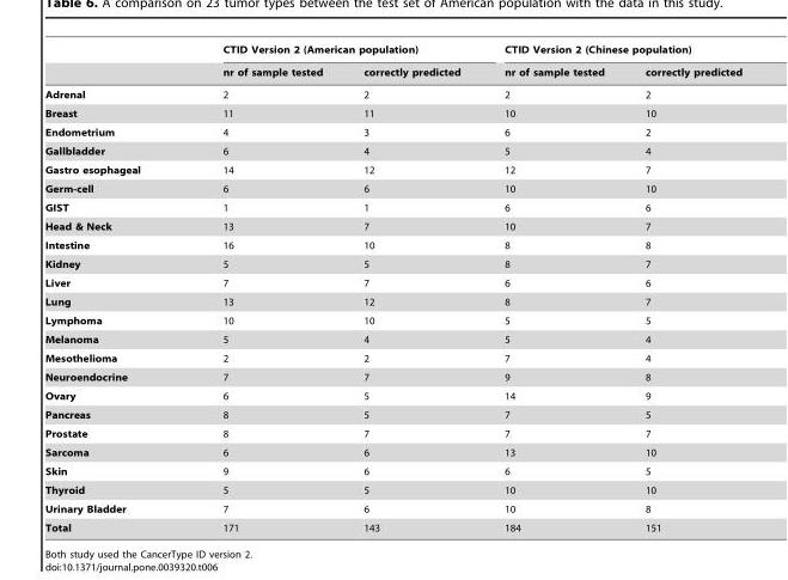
<table><thead><tr><td rowspan="2"></td><td colspan="2">CTID Version 2 (American population)</td><td colspan="2">CTID Version 2 (Chinese population)</td></tr><tr><td>nr of sample tested</td><td>correctly predicted</td><td>nr of sample tested</td><td>correctly predicted</td></tr></thead><tbody><tr><td>Adrenal</td><td>2</td><td>2</td><td>2</td><td>2</td></tr><tr><td>Breast</td><td>11</td><td>11</td><td>10</td><td>10</td></tr><tr><td>Endometrium</td><td>4</td><td>3</td><td>6</td><td>2</td></tr><tr><td>Gallbladder</td><td>6</td><td>4</td><td>5</td><td>4</td></tr><tr><td>Gastro esophageal</td><td>14</td><td>12</td><td>12</td><td>7</td></tr><tr><td>Germ-cell</td><td>6</td><td>6</td><td>10</td><td>10</td></tr><tr><td>GIST</td><td>1</td><td>1</td><td>6</td><td>6</td></tr><tr><td>Head &amp; Neck</td><td>13</td><td>7</td><td>10</td><td>7</td></tr><tr><td>Intestine</td><td>16</td><td>10</td><td>8</td><td>8</td></tr><tr><td>Kidney</td><td>5</td><td>5</td><td>8</td><td>7</td></tr><tr><td>Liver</td><td>7</td><td>7</td><td>6</td><td>6</td></tr><tr><td>Lung</td><td>13</td><td>12</td><td>8</td><td>7</td></tr><tr><td>Lymphoma</td><td>10</td><td>10</td><td>5</td><td>5</td></tr><tr><td>Melanoma</td><td>5</td><td>4</td><td>5</td><td>4</td></tr><tr><td>Mesothelioma</td><td>2</td><td>2</td><td>7</td><td>4</td></tr><tr><td>Neuroendocrine</td><td>7</td><td>7</td><td>9</td><td>8</td></tr><tr><td>Ovary</td><td>6</td><td>5</td><td>14</td><td>9</td></tr><tr><td>Pancreas</td><td>8</td><td>5</td><td>7</td><td>5</td></tr><tr><td>Prostate</td><td>8</td><td>7</td><td>7</td><td>7</td></tr><tr><td>Sarcoma</td><td>6</td><td>6</td><td>13</td><td>10</td></tr><tr><td>Skin</td><td>9</td><td>6</td><td>6</td><td>5</td></tr><tr><td>Thyroid</td><td>5</td><td>5</td><td>10</td><td>10</td></tr><tr><td>Urinary Bladder</td><td>7</td><td>6</td><td>10</td><td>8</td></tr><tr><td>Total</td><td>171</td><td>143</td><td>184</td><td>151</td></tr></tbody></table>